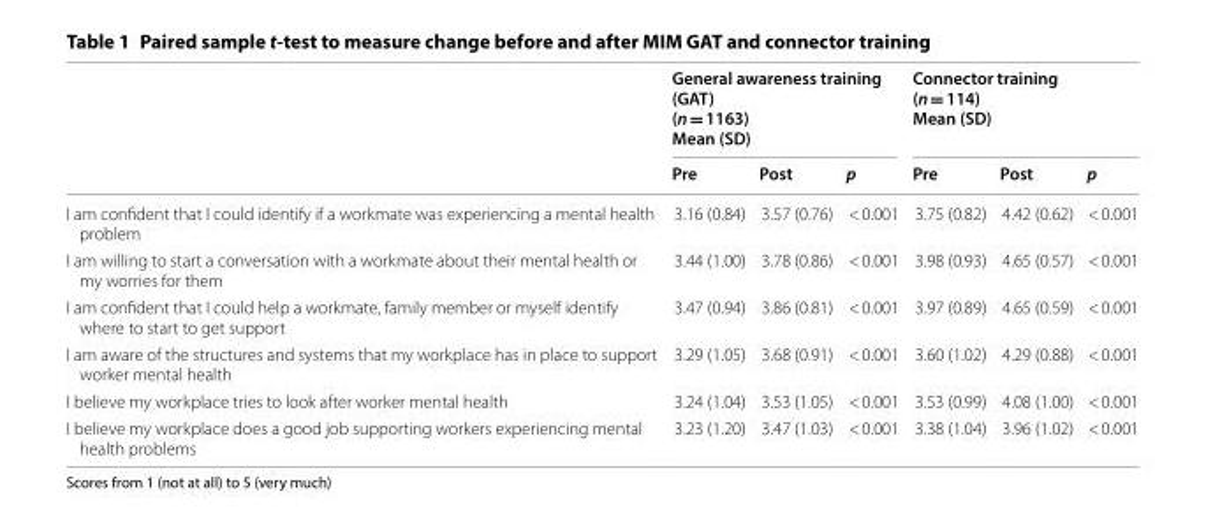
<table><thead><tr><td rowspan="2"></td><td colspan="3">General awareness training (GAT) (n = 1163) Mean (SD)</td><td colspan="3">Connector training (n = 114) Mean (SD)</td></tr><tr><td>Pre</td><td>Post</td><td>p</td><td>Pre</td><td>Post</td><td>p</td></tr></thead><tbody><tr><td>I am confident that I could identify if a workmate was experiencing a mental health problem</td><td>3.16 (0.84)</td><td>3.57 (0.76)</td><td>&lt; 0.001</td><td>3.75 (0.82)</td><td>4.42 (0.62)</td><td>&lt; 0.001</td></tr><tr><td>I am willing to start a conversation with a workmate about their mental health or my worries for them</td><td>3.44 (1.00)</td><td>3.78 (0.86)</td><td>&lt; 0.001</td><td>3.98 (0.93)</td><td>4.65 (0.57)</td><td>&lt; 0.001</td></tr><tr><td>I am confident that I could help a workmate, family member or myself identify where to start to get support</td><td>3.47 (0.94)</td><td>3.86 (0.81)</td><td>&lt; 0.001</td><td>3.97 (0.89)</td><td>4.65 (0.59)</td><td>&lt; 0.001</td></tr><tr><td>I am aware of the structures and systems that my workplace has in place to support worker mental health</td><td>3.29 (1.05)</td><td>3.68 (0.91)</td><td>&lt; 0.001</td><td>3.60 (1.02)</td><td>4.29 (0.88)</td><td>&lt; 0.001</td></tr><tr><td>I believe my workplace tries to look after worker mental health</td><td>3.24 (1.04)</td><td>3.53 (1.05)</td><td>&lt; 0.001</td><td>3.53 (0.99)</td><td>4.08 (1.00)</td><td>&lt; 0.001</td></tr><tr><td>I believe my workplace does a good job supporting workers experiencing mental health problems</td><td>3.23 (1.20)</td><td>3.47 (1.03)</td><td>&lt; 0.001</td><td>3.38 (1.04)</td><td>3.96 (1.02)</td><td>&lt; 0.001</td></tr></tbody></table>